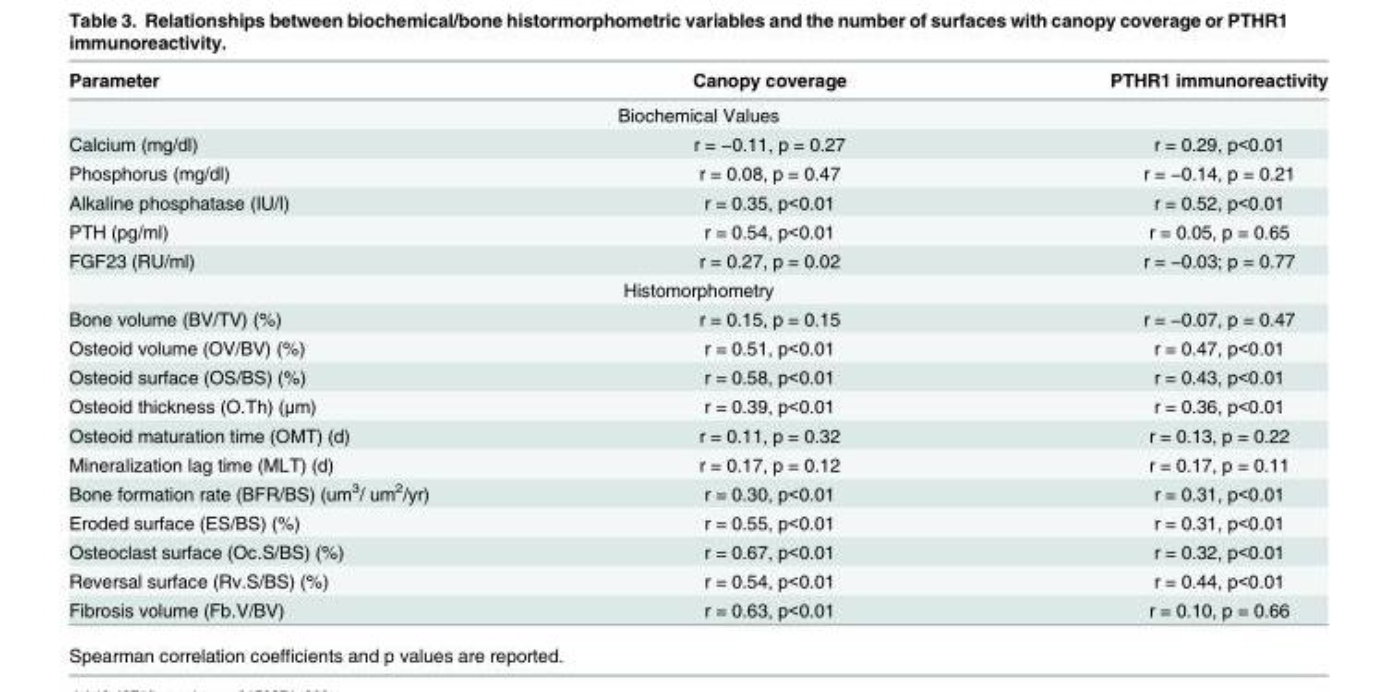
<table><thead><tr><td>Parameter</td><td>Canopy coverage</td><td>PTHR1 immunoreactivity</td></tr></thead><tbody><tr><td colspan="3">Biochemical Values</td></tr><tr><td>Calcium (mg/dl)</td><td>r = −0.11, p = 0.27</td><td>r = 0.29, p&lt;0.01</td></tr><tr><td>Phosphorus (mg/dl)</td><td>r = 0.08, p = 0.47</td><td>r = −0.14, p = 0.21</td></tr><tr><td>Alkaline phosphatase (IU/l)</td><td>r = 0.35, p&lt;0.01</td><td>r = 0.52, p&lt;0.01</td></tr><tr><td>PTH (pg/ml)</td><td>r = 0.54, p&lt;0.01</td><td>r = 0.05, p = 0.65</td></tr><tr><td>FGF23 (RU/ml)</td><td>r = 0.27, p = 0.02</td><td>r = −0.03; p = 0.77</td></tr><tr><td colspan="3">Histomorphometry</td></tr><tr><td>Bone volume (BV/TV) (%)</td><td>r = 0.15, p = 0.15</td><td>r = −0.07, p = 0.47</td></tr><tr><td>Osteoid volume (OV/BV) (%)</td><td>r = 0.51, p&lt;0.01</td><td>r = 0.47, p&lt;0.01</td></tr><tr><td>Osteoid surface (OS/BS) (%)</td><td>r = 0.58, p&lt;0.01</td><td>r = 0.43, p&lt;0.01</td></tr><tr><td>Osteoid thickness (O.Th) (μm)</td><td>r = 0.39, p&lt;0.01</td><td>r = 0.36, p&lt;0.01</td></tr><tr><td>Osteoid maturation time (OMT) (d)</td><td>r = 0.11, p = 0.32</td><td>r = 0.13, p = 0.22</td></tr><tr><td>Mineralization lag time (MLT) (d)</td><td>r = 0.17, p = 0.12</td><td>r = 0.17, p = 0.11</td></tr><tr><td>Bone formation rate (BFR/BS) (um<sup>3</sup>/ um<sup>2</sup>/yr)</td><td>r = 0.30, p&lt;0.01</td><td>r = 0.31, p&lt;0.01</td></tr><tr><td>Eroded surface (ES/BS) (%)</td><td>r = 0.55, p&lt;0.01</td><td>r = 0.31, p&lt;0.01</td></tr><tr><td>Osteoclast surface (Oc.S/BS) (%)</td><td>r = 0.67, p&lt;0.01</td><td>r = 0.32, p&lt;0.01</td></tr><tr><td>Reversal surface (Rv.S/BS) (%)</td><td>r = 0.54, p&lt;0.01</td><td>r = 0.44, p&lt;0.01</td></tr><tr><td>Fibrosis volume (Fb.V/BV)</td><td>r = 0.63, p&lt;0.01</td><td>r = 0.10, p = 0.66</td></tr></tbody></table>